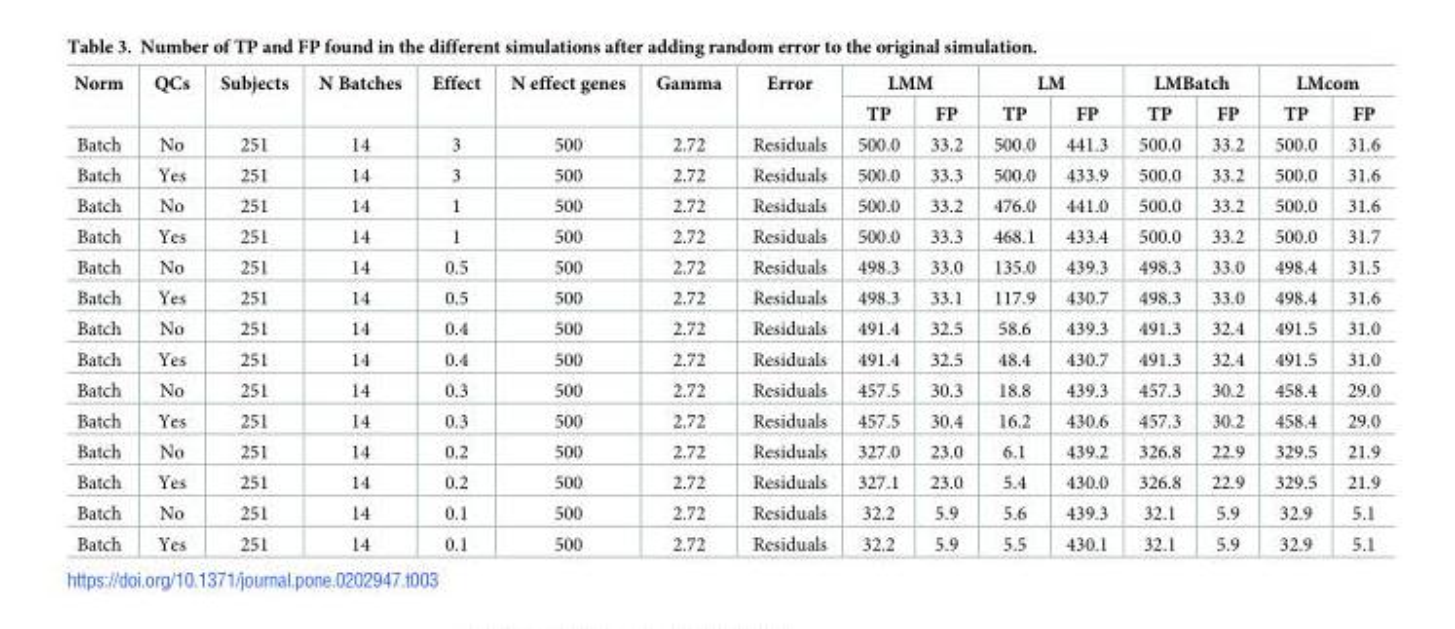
<table><thead><tr><td rowspan="2">Norm</td><td rowspan="2">QCs</td><td rowspan="2">Subjects</td><td rowspan="2">N Batches</td><td rowspan="2">Effect</td><td rowspan="2">N effect genes</td><td rowspan="2">Gamma</td><td rowspan="2">Error</td><td colspan="2">LMM</td><td colspan="2">LM</td><td colspan="2">LMBatch</td><td colspan="2">LMcom</td></tr><tr><td>TP</td><td>FP</td><td>TP</td><td>FP</td><td>TP</td><td>FP</td><td>TP</td><td>FP</td></tr></thead><tbody><tr><td>Batch</td><td>No</td><td>251</td><td>14</td><td>3</td><td>500</td><td>2.72</td><td>Residuals</td><td>500.0</td><td>33.2</td><td>500.0</td><td>441.3</td><td>500.0</td><td>33.2</td><td>500.0</td><td>31.6</td></tr><tr><td>Batch</td><td>Yes</td><td>251</td><td>14</td><td>3</td><td>500</td><td>2.72</td><td>Residuals</td><td>500.0</td><td>33.3</td><td>500.0</td><td>433.9</td><td>500.0</td><td>33.2</td><td>500.0</td><td>31.6</td></tr><tr><td>Batch</td><td>No</td><td>251</td><td>14</td><td>1</td><td>500</td><td>2.72</td><td>Residuals</td><td>500.0</td><td>33.2</td><td>476.0</td><td>441.0</td><td>500.0</td><td>33.2</td><td>500.0</td><td>31.6</td></tr><tr><td>Batch</td><td>Yes</td><td>251</td><td>14</td><td>1</td><td>500</td><td>2.72</td><td>Residuals</td><td>500.0</td><td>33.3</td><td>468.1</td><td>433.4</td><td>500.0</td><td>33.2</td><td>500.0</td><td>31.7</td></tr><tr><td>Batch</td><td>No</td><td>251</td><td>14</td><td>0.5</td><td>500</td><td>2.72</td><td>Residuals</td><td>498.3</td><td>33.0</td><td>135.0</td><td>439.3</td><td>498.3</td><td>33.0</td><td>498.4</td><td>31.5</td></tr><tr><td>Batch</td><td>Yes</td><td>251</td><td>14</td><td>0.5</td><td>500</td><td>2.72</td><td>Residuals</td><td>498.3</td><td>33.1</td><td>117.9</td><td>430.7</td><td>498.3</td><td>33.0</td><td>498.4</td><td>31.6</td></tr><tr><td>Batch</td><td>No</td><td>251</td><td>14</td><td>0.4</td><td>500</td><td>2.72</td><td>Residuals</td><td>491.4</td><td>32.5</td><td>58.6</td><td>439.3</td><td>491.3</td><td>32.4</td><td>491.5</td><td>31.0</td></tr><tr><td>Batch</td><td>Yes</td><td>251</td><td>14</td><td>0.4</td><td>500</td><td>2.72</td><td>Residuals</td><td>491.4</td><td>32.5</td><td>48.4</td><td>430.7</td><td>491.3</td><td>32.4</td><td>491.5</td><td>31.0</td></tr><tr><td>Batch</td><td>No</td><td>251</td><td>14</td><td>0.3</td><td>500</td><td>2.72</td><td>Residuals</td><td>457.5</td><td>30.3</td><td>18.8</td><td>439.3</td><td>457.3</td><td>30.2</td><td>458.4</td><td>29.0</td></tr><tr><td>Batch</td><td>Yes</td><td>251</td><td>14</td><td>0.3</td><td>500</td><td>2.72</td><td>Residuals</td><td>457.5</td><td>30.4</td><td>16.2</td><td>430.6</td><td>457.3</td><td>30.2</td><td>458.4</td><td>29.0</td></tr><tr><td>Batch</td><td>No</td><td>251</td><td>14</td><td>0.2</td><td>500</td><td>2.72</td><td>Residuals</td><td>327.0</td><td>23.0</td><td>6.1</td><td>439.2</td><td>326.8</td><td>22.9</td><td>329.5</td><td>21.9</td></tr><tr><td>Batch</td><td>Yes</td><td>251</td><td>14</td><td>0.2</td><td>500</td><td>2.72</td><td>Residuals</td><td>327.1</td><td>23.0</td><td>5.4</td><td>430.0</td><td>326.8</td><td>22.9</td><td>329.5</td><td>21.9</td></tr><tr><td>Batch</td><td>No</td><td>251</td><td>14</td><td>0.1</td><td>500</td><td>2.72</td><td>Residuals</td><td>32.2</td><td>5.9</td><td>5.6</td><td>439.3</td><td>32.1</td><td>5.9</td><td>32.9</td><td>5.1</td></tr><tr><td>Batch</td><td>Yes</td><td>251</td><td>14</td><td>0.1</td><td>500</td><td>2.72</td><td>Residuals</td><td>32.2</td><td>5.9</td><td>5.5</td><td>430.1</td><td>32.1</td><td>5.9</td><td>32.9</td><td>5.1</td></tr></tbody></table>